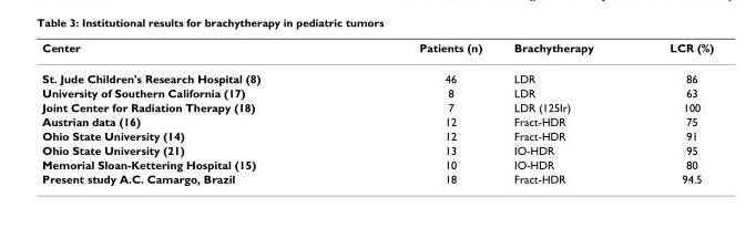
<table><thead><tr><td>Center</td><td>Patients (n)</td><td>Brachytherapy</td><td>LCR (%)</td></tr></thead><tbody><tr><td>St. Jude Children&#x27;s Research Hospital (8)</td><td>46</td><td>LDR</td><td>86</td></tr><tr><td>University of Southern California (17)</td><td>8</td><td>LDR</td><td>63</td></tr><tr><td>Joint Center for Radiation Therapy (18)</td><td>7</td><td>LDR (125Ir)</td><td>100</td></tr><tr><td>Austrian data (16)</td><td>12</td><td>Fract-HDR</td><td>75</td></tr><tr><td>Ohio State University (14)</td><td>12</td><td>Fract-HDR</td><td>91</td></tr><tr><td>Ohio State University (21)</td><td>13</td><td>IO-HDR</td><td>95</td></tr><tr><td>Memorial Sloan-Kettering Hospital (15)</td><td>10</td><td>IO-HDR</td><td>80</td></tr><tr><td>Present study A.C. Camargo, Brazil</td><td>18</td><td>Fract-HDR</td><td>94.5</td></tr></tbody></table>